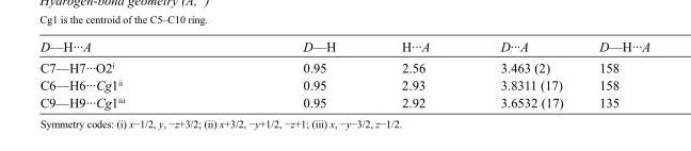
<table><tbody><tr><td>D—H···A</td><td>D—H</td><td>H···A</td><td>D···A</td><td>D—H···A</td></tr><tr><td>C7—H7···O2<sup>i</sup></td><td>0.95</td><td>2.56</td><td>3.463 (2)</td><td>158</td></tr><tr><td>C6—H6···Cg1<sup>ii</sup></td><td>0.95</td><td>2.93</td><td>3.8311 (17)</td><td>158</td></tr><tr><td>C9—H9···Cg1<sup>iii</sup></td><td>0.95</td><td>2.92</td><td>3.6532 (17)</td><td>135</td></tr></tbody></table>